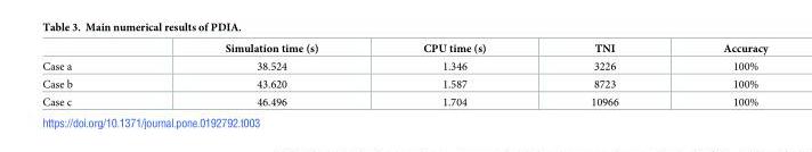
<table><thead><tr><td></td><td>Simulation time (s)</td><td>CPU time (s)</td><td>TNI</td><td>Accuracy</td></tr></thead><tbody><tr><td>Case a</td><td>38.524</td><td>1.346</td><td>3226</td><td>100%</td></tr><tr><td>Case b</td><td>43.620</td><td>1.587</td><td>8723</td><td>100%</td></tr><tr><td>Case c</td><td>46.496</td><td>1.704</td><td>10966</td><td>100%</td></tr></tbody></table>